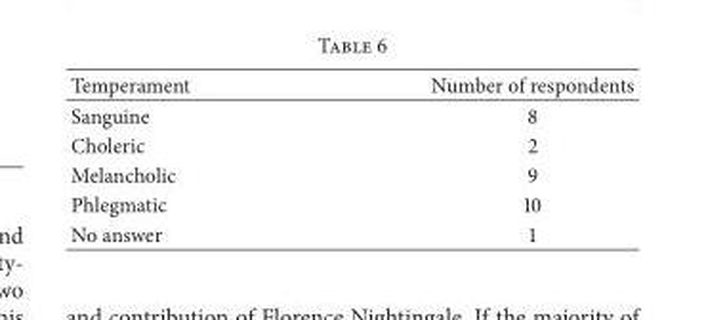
<table><thead><tr><td>Temperament</td><td>Number of respondents</td></tr></thead><tbody><tr><td>Sanguine</td><td>8</td></tr><tr><td>Choleric</td><td>2</td></tr><tr><td>Melancholic</td><td>9</td></tr><tr><td>Phlegmatic</td><td>10</td></tr><tr><td>No answer</td><td>1</td></tr></tbody></table>